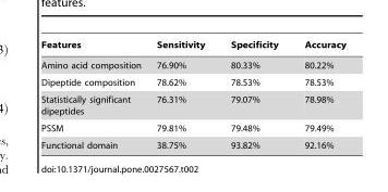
<table><thead><tr><td>Features</td><td>Sensitivity</td><td>Specificity</td><td>Accuracy</td></tr></thead><tbody><tr><td>Amino acid composition</td><td>76.90%</td><td>80.33%</td><td>80.22%</td></tr><tr><td>Dipeptide composition</td><td>78.62%</td><td>78.53%</td><td>78.53%</td></tr><tr><td>Statistically significant dipeptides</td><td>76.31%</td><td>79.07%</td><td>78.98%</td></tr><tr><td>PSSM</td><td>79.81%</td><td>79.48%</td><td>79.49%</td></tr><tr><td>Functional domain</td><td>38.75%</td><td>93.82%</td><td>92.16%</td></tr></tbody></table>